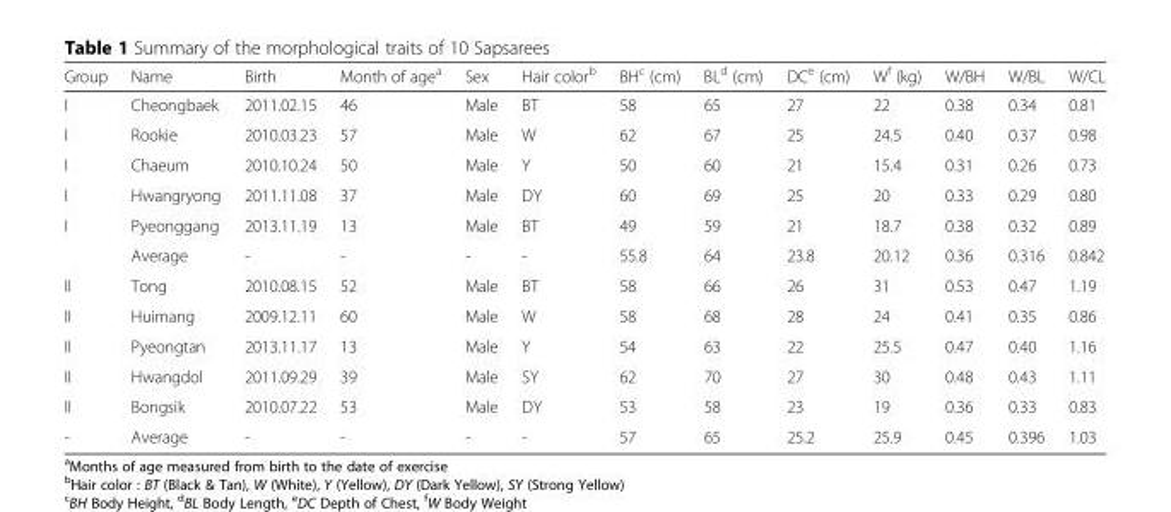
<table><thead><tr><td>Group</td><td>Name</td><td>Birth</td><td>Month of age<sup>a</sup></td><td>Sex</td><td>Hair color<sup>b</sup></td><td>BH<sup>c</sup> (cm)</td><td>BL<sup>d</sup> (cm)</td><td>DC<sup>e</sup> (cm)</td><td>W<sup>f</sup> (kg)</td><td>W/BH</td><td>W/BL</td><td>W/CL</td></tr></thead><tbody><tr><td>I</td><td>Cheongbaek</td><td>2011.02.15</td><td>46</td><td>Male</td><td>BT</td><td>58</td><td>65</td><td>27</td><td>22</td><td>0.38</td><td>0.34</td><td>0.81</td></tr><tr><td>I</td><td>Rookie</td><td>2010.03.23</td><td>57</td><td>Male</td><td>W</td><td>62</td><td>67</td><td>25</td><td>24.5</td><td>0.40</td><td>0.37</td><td>0.98</td></tr><tr><td>I</td><td>Chaeum</td><td>2010.10.24</td><td>50</td><td>Male</td><td>Y</td><td>50</td><td>60</td><td>21</td><td>15.4</td><td>0.31</td><td>0.26</td><td>0.73</td></tr><tr><td>I</td><td>Hwangryong</td><td>2011.11.08</td><td>37</td><td>Male</td><td>DY</td><td>60</td><td>69</td><td>25</td><td>20</td><td>0.33</td><td>0.29</td><td>0.80</td></tr><tr><td rowspan="2">I</td><td>Pyeonggang</td><td>2013.11.19</td><td>13</td><td>Male</td><td>BT</td><td>49</td><td>59</td><td>21</td><td>18.7</td><td>0.38</td><td>0.32</td><td>0.89</td></tr><tr><td>Average</td><td>-</td><td>-</td><td>-</td><td>-</td><td>55.8</td><td>64</td><td>23.8</td><td>20.12</td><td>0.36</td><td>0.316</td><td>0.842</td></tr><tr><td>II</td><td>Tong</td><td>2010.08.15</td><td>52</td><td>Male</td><td>BT</td><td>58</td><td>66</td><td>26</td><td>31</td><td>0.53</td><td>0.47</td><td>1.19</td></tr><tr><td>II</td><td>Huimang</td><td>2009.12.11</td><td>60</td><td>Male</td><td>W</td><td>58</td><td>68</td><td>28</td><td>24</td><td>0.41</td><td>0.35</td><td>0.86</td></tr><tr><td>II</td><td>Pyeongtan</td><td>2013.11.17</td><td>13</td><td>Male</td><td>Y</td><td>54</td><td>63</td><td>22</td><td>25.5</td><td>0.47</td><td>0.40</td><td>1.16</td></tr><tr><td>II</td><td>Hwangdol</td><td>2011.09.29</td><td>39</td><td>Male</td><td>SY</td><td>62</td><td>70</td><td>27</td><td>30</td><td>0.48</td><td>0.43</td><td>1.11</td></tr><tr><td>II</td><td>Bongsik</td><td>2010.07.22</td><td>53</td><td>Male</td><td>DY</td><td>53</td><td>58</td><td>23</td><td>19</td><td>0.36</td><td>0.33</td><td>0.83</td></tr><tr><td>-</td><td>Average</td><td>-</td><td>-</td><td>-</td><td>-</td><td>57</td><td>65</td><td>25.2</td><td>25.9</td><td>0.45</td><td>0.396</td><td>1.03</td></tr></tbody></table>